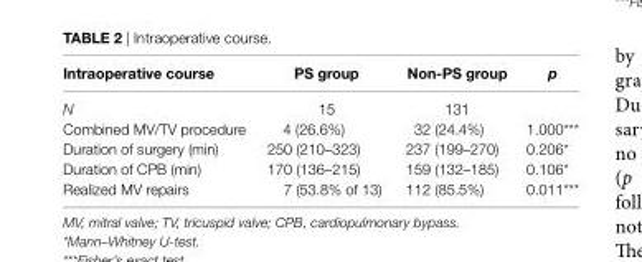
<table><thead><tr><td>intraoperative course</td><td>Ps group</td><td>non-Ps group</td><td>p</td></tr></thead><tbody><tr><td>N</td><td>15</td><td>131</td><td></td></tr><tr><td>Combined MV/TV procedure</td><td>4 (26.6%)</td><td>32 (24.4%)</td><td>1.000***</td></tr><tr><td>Duration of surgery (min)</td><td>250 (210–323)</td><td>237 (199–270)</td><td>0.206*</td></tr><tr><td>Duration of CPB (min)</td><td>170 (136–215)</td><td>159 (132–185)</td><td>0.106*</td></tr><tr><td>Realized MV repairs</td><td>7 (53.8% of 13)</td><td>112 (85.5%)</td><td>0.011***</td></tr></tbody></table>